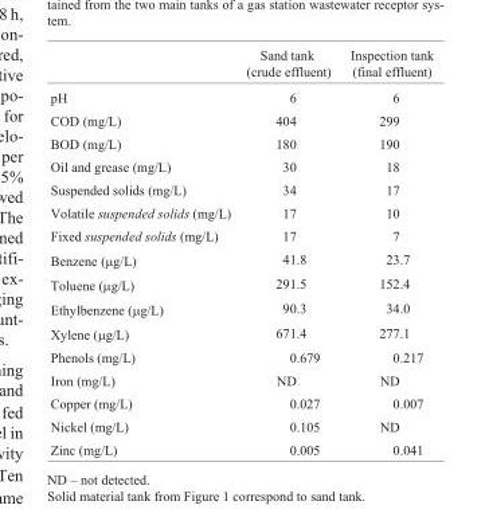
<table><thead><tr><td></td><td>Sand tank (crude effluent)</td><td>Inspection tank (final effluent)</td></tr></thead><tbody><tr><td>pH</td><td>6</td><td>6</td></tr><tr><td>COD (mg/L)</td><td>404</td><td>299</td></tr><tr><td>BOD (mg/L)</td><td>180</td><td>190</td></tr><tr><td>Oil and grease (mg/L)</td><td>30</td><td>18</td></tr><tr><td>Suspended solids (mg/L)</td><td>34</td><td>17</td></tr><tr><td>Volatile suspended solids (mg/L)</td><td>17</td><td>10</td></tr><tr><td>Fixed suspended solids (mg/L)</td><td>17</td><td>7</td></tr><tr><td>Benzene (μg/L)</td><td>41.8</td><td>23.7</td></tr><tr><td>Toluene (μg/L)</td><td>291.5</td><td>152.4</td></tr><tr><td>Ethylbenzene (μg/L)</td><td>90.3</td><td>34.0</td></tr><tr><td>Xylene (μg/L)</td><td>671.4</td><td>277.1</td></tr><tr><td>Phenols (mg/L)</td><td>0.679</td><td>0.217</td></tr><tr><td>Iron (mg/L)</td><td>ND</td><td>ND</td></tr><tr><td>Copper (mg/L)</td><td>0.027</td><td>0.007</td></tr><tr><td>Nickel (mg/L)</td><td>0.105</td><td>ND</td></tr><tr><td>Zinc (mg/L)</td><td>0.005</td><td>0.041</td></tr></tbody></table>